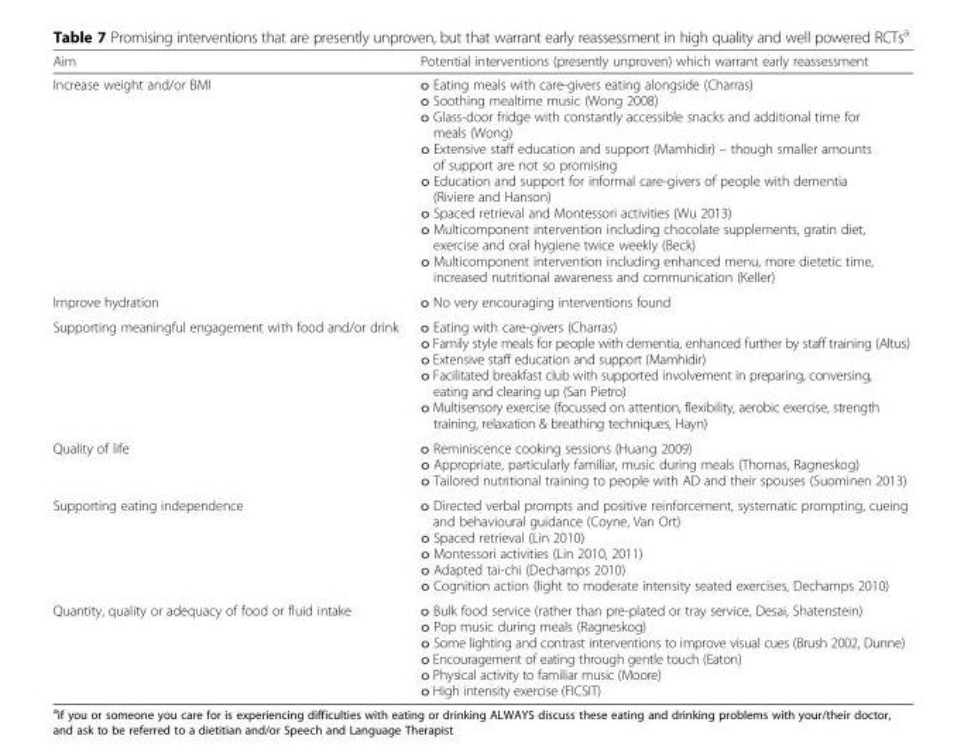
<table><thead><tr><td>Aim</td><td>Potential interventions (presently unproven) which warrant early reassessment</td></tr></thead><tbody><tr><td>Increase weight and/or BMI</td><td>o Eating meals with care-givers eating alongside (Charras) o Soothing mealtime music (Wong 2008) o Glass-door fridge with constantly accessible snacks and additional time for meals (Wong) o Extensive staff education and support (Mamhidir) – though smaller amounts of support are not so promising o Education and support for informal care-givers of people with dementia (Riviere and Hanson) o Spaced retrieval and Montessori activities (Wu 2013) o Multicomponent intervention including chocolate supplements, gratin diet, exercise and oral hygiene twice weekly (Beck) o Multicomponent intervention including enhanced menu, more dietetic time, increased nutritional awareness and communication (Keller)</td></tr><tr><td>Improve hydration</td><td>o No very encouraging interventions found</td></tr><tr><td>Supporting meaningful engagement with food and/or drink</td><td>o Eating with care-givers (Charras) o Family style meals for people with dementia, enhanced further by staff training (Altus) o Extensive staff education and support (Mamhidir) o Facilitated breakfast club with supported involvement in preparing, conversing, eating and clearing up (San Pietro) o Multisensory exercise (focussed on attention, flexibility, aerobic exercise, strength training, relaxation &amp; breathing techniques, Hayn)</td></tr><tr><td>Quality of life</td><td>o Reminiscence cooking sessions (Huang 2009) o Appropriate, particularly familiar, music during meals (Thomas, Ragneskog) o Tailored nutritional training to people with AD and their spouses (Suominen 2013)</td></tr><tr><td>Supporting eating independence</td><td>o Directed verbal prompts and positive reinforcement, systematic prompting, cueing and behavioural guidance (Coyne, Van Ort) o Spaced retrieval (Lin 2010) o Montessori activities (Lin 2010, 2011) o Adapted tai-chi (Dechamps 2010) o Cognition action (light to moderate intensity seated exercises, Dechamps 2010)</td></tr><tr><td>Quantity, quality or adequacy of food or fluid intake</td><td>o Bulk food service (rather than pre-plated or tray service, Desai, Shatenstein) o Pop music during meals (Ragneskog) o Some lighting and contrast interventions to improve visual cues (Brush 2002, Dunne) o Encouragement of eating through gentle touch (Eaton) o Physical activity to familiar music (Moore) o High intensity exercise (FICSIT)</td></tr></tbody></table>